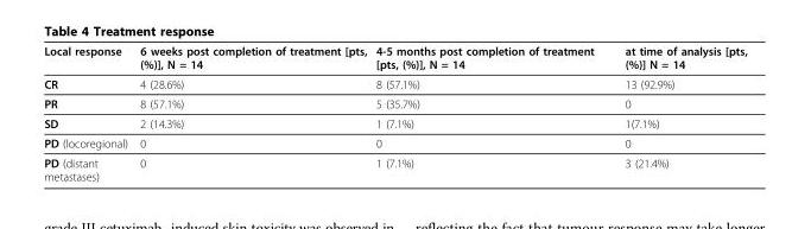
<table><thead><tr><td>Local response</td><td>6 weeks post completion of treatment [pts, (%)], N = 14</td><td>4-5 months post completion of treatment [pts, (%)], N = 14</td><td>at time of analysis [pts, (%)] N = 14</td></tr></thead><tbody><tr><td>CR</td><td>4 (28.6%)</td><td>8 (57.1%)</td><td>13 (92.9%)</td></tr><tr><td>PR</td><td>8 (57.1%)</td><td>5 (35.7%)</td><td>0</td></tr><tr><td>SD</td><td>2 (14.3%)</td><td>1 (7.1%)</td><td>1(7.1%)</td></tr><tr><td>PD (locoregional)</td><td>0</td><td>0</td><td>0</td></tr><tr><td>PD (distant metastases)</td><td>0</td><td>1 (7.1%)</td><td>3 (21.4%)</td></tr></tbody></table>